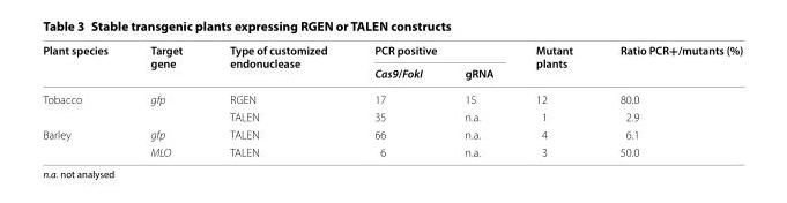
<table><thead><tr><td rowspan="2">Plant species</td><td rowspan="2">Target gene</td><td rowspan="2">Type of customized endonuclease</td><td colspan="2">PCR positive</td><td rowspan="2">Mutant plants</td><td rowspan="2">Ratio PCR+/mutants (%)</td></tr><tr><td>Cas9/FokI</td><td>gRNA</td></tr></thead><tbody><tr><td rowspan="2">Tobacco</td><td rowspan="2">gfp</td><td>RGEN</td><td>17</td><td>15</td><td>12</td><td>80.0</td></tr><tr><td>TALEN</td><td>35</td><td>n.a.</td><td>1</td><td>2.9</td></tr><tr><td rowspan="2">Barley</td><td>gfp</td><td>TALEN</td><td>66</td><td>n.a.</td><td>4</td><td>6.1</td></tr><tr><td>MLO</td><td>TALEN</td><td>6</td><td>n.a.</td><td>3</td><td>50.0</td></tr></tbody></table>